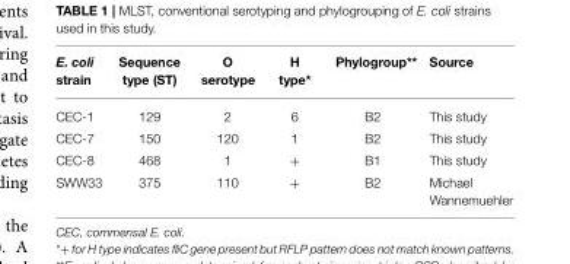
<table><thead><tr><td>E. coli strain</td><td>Sequence type (ST)</td><td>O serotype</td><td>H type*</td><td>Phylogroup**</td><td>Source</td></tr></thead><tbody><tr><td>CEC-1</td><td>129</td><td>2</td><td>6</td><td>B2</td><td>This study</td></tr><tr><td>CEC-7</td><td>150</td><td>120</td><td>1</td><td>B2</td><td>This study</td></tr><tr><td>CEC-8</td><td>468</td><td>1</td><td>+</td><td>B1</td><td>This study</td></tr><tr><td>SWW33</td><td>375</td><td>110</td><td>+</td><td>B2</td><td>Michael Wannemuehler</td></tr></tbody></table>